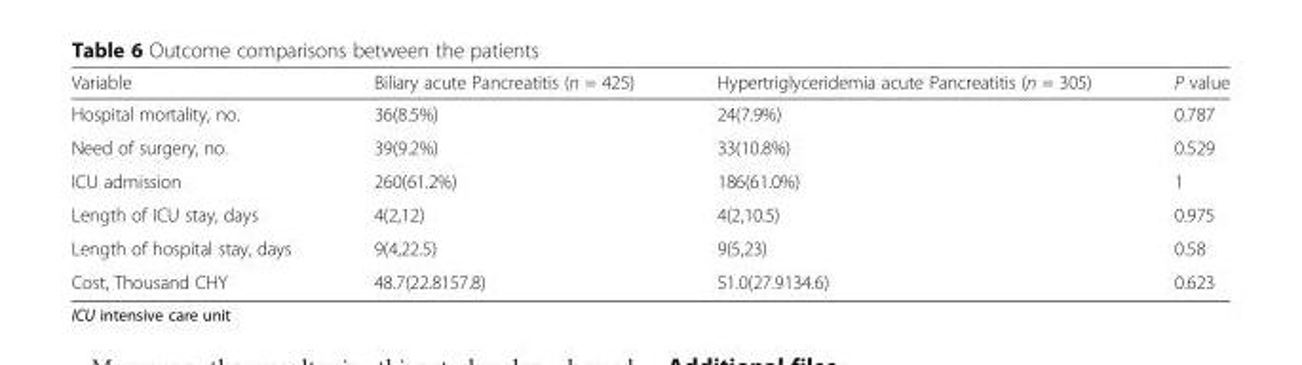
<table><thead><tr><td>Variable</td><td>Biliary acute Pancreatitis (n = 425)</td><td>Hypertriglyceridemia acute Pancreatitis (n = 305)</td><td>P value</td></tr></thead><tbody><tr><td>Hospital mortality, no.</td><td>36(8.5%)</td><td>24(7.9%)</td><td>0.787</td></tr><tr><td>Need of surgery, no.</td><td>39(9.2%)</td><td>33(10.8%)</td><td>0.529</td></tr><tr><td>ICU admission</td><td>260(61.2%)</td><td>186(61.0%)</td><td>1</td></tr><tr><td>Length of ICU stay, days</td><td>4(2,12)</td><td>4(2,10.5)</td><td>0.975</td></tr><tr><td>Length of hospital stay, days</td><td>9(4,22.5)</td><td>9(5,23)</td><td>0.58</td></tr><tr><td>Cost, Thousand CHY</td><td>48.7(22.8157.8)</td><td>51.0(27.9134.6)</td><td>0.623</td></tr></tbody></table>